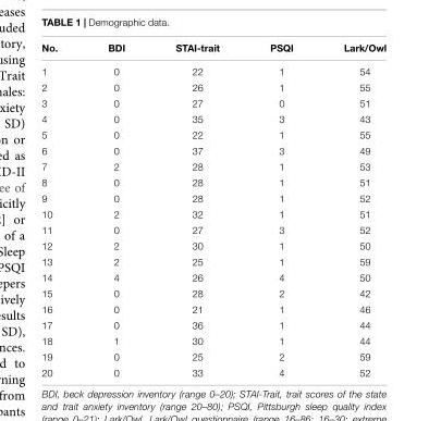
<table><thead><tr><td>No.</td><td>BDI</td><td>STAI-trait</td><td>PSQI</td><td>Lark/Owl</td></tr></thead><tbody><tr><td>1</td><td>0</td><td>22</td><td>1</td><td>54</td></tr><tr><td>2</td><td>0</td><td>26</td><td>1</td><td>55</td></tr><tr><td>3</td><td>0</td><td>27</td><td>0</td><td>51</td></tr><tr><td>4</td><td>0</td><td>35</td><td>3</td><td>43</td></tr><tr><td>5</td><td>0</td><td>22</td><td>1</td><td>55</td></tr><tr><td>6</td><td>0</td><td>37</td><td>3</td><td>49</td></tr><tr><td>7</td><td>2</td><td>28</td><td>1</td><td>53</td></tr><tr><td>8</td><td>0</td><td>28</td><td>1</td><td>51</td></tr><tr><td>9</td><td>0</td><td>28</td><td>1</td><td>52</td></tr><tr><td>10</td><td>2</td><td>32</td><td>1</td><td>51</td></tr><tr><td>11</td><td>0</td><td>27</td><td>3</td><td>52</td></tr><tr><td>12</td><td>2</td><td>30</td><td>1</td><td>50</td></tr><tr><td>13</td><td>2</td><td>25</td><td>1</td><td>59</td></tr><tr><td>14</td><td>4</td><td>26</td><td>4</td><td>50</td></tr><tr><td>15</td><td>0</td><td>28</td><td>2</td><td>42</td></tr><tr><td>16</td><td>0</td><td>21</td><td>1</td><td>46</td></tr><tr><td>17</td><td>0</td><td>36</td><td>1</td><td>44</td></tr><tr><td>18</td><td>1</td><td>30</td><td>1</td><td>44</td></tr><tr><td>19</td><td>0</td><td>25</td><td>2</td><td>59</td></tr><tr><td>20</td><td>0</td><td>33</td><td>4</td><td>52</td></tr></tbody></table>